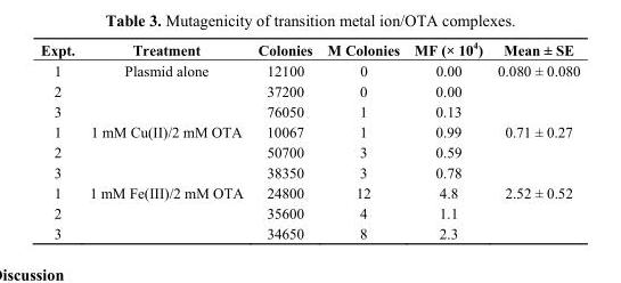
<table><thead><tr><td>Expt.</td><td>Treatment</td><td>Colonies</td><td>M Colonies</td><td>MF (× 10<sup>4</sup>)</td><td>Mean ± SE</td></tr></thead><tbody><tr><td>1</td><td>Plasmid alone</td><td>12100</td><td>0</td><td>0.00</td><td>0.080 ± 0.080</td></tr><tr><td>2</td><td></td><td>37200</td><td>0</td><td>0.00</td><td></td></tr><tr><td>3</td><td></td><td>76050</td><td>1</td><td>0.13</td><td></td></tr><tr><td>1</td><td>1 mM Cu(II)/2 mM OTA</td><td>10067</td><td>1</td><td>0.99</td><td>0.71 ± 0.27</td></tr><tr><td>2</td><td></td><td>50700</td><td>3</td><td>0.59</td><td></td></tr><tr><td>3</td><td></td><td>38350</td><td>3</td><td>0.78</td><td></td></tr><tr><td>1</td><td>1 mM Fe(III)/2 mM OTA</td><td>24800</td><td>12</td><td>4.8</td><td>2.52 ± 0.52</td></tr><tr><td>2</td><td></td><td>35600</td><td>4</td><td>1.1</td><td></td></tr><tr><td>3</td><td></td><td>34650</td><td>8</td><td>2.3</td><td></td></tr></tbody></table>